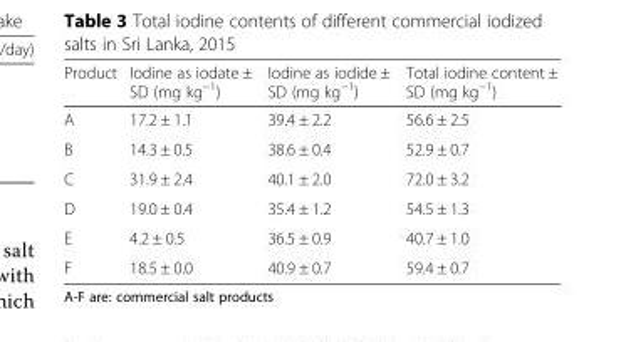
<table><thead><tr><td>Product</td><td>Iodine as iodate ± SD (mg kg<sup>−1</sup>)</td><td>Iodine as iodide ± SD (mg kg<sup>−1</sup>)</td><td>Total iodine content ± SD (mg kg<sup>−1</sup>)</td></tr></thead><tbody><tr><td>A</td><td>17.2 ± 1.1</td><td>39.4 ± 2.2</td><td>56.6 ± 2.5</td></tr><tr><td>B</td><td>14.3 ± 0.5</td><td>38.6 ± 0.4</td><td>52.9 ± 0.7</td></tr><tr><td>C</td><td>31.9 ± 2.4</td><td>40.1 ± 2.0</td><td>72.0 ± 3.2</td></tr><tr><td>D</td><td>19.0 ± 0.4</td><td>35.4 ± 1.2</td><td>54.5 ± 1.3</td></tr><tr><td>E</td><td>4.2 ± 0.5</td><td>36.5 ± 0.9</td><td>40.7 ± 1.0</td></tr><tr><td>F</td><td>18.5 ± 0.0</td><td>40.9 ± 0.7</td><td>59.4 ± 0.7</td></tr></tbody></table>